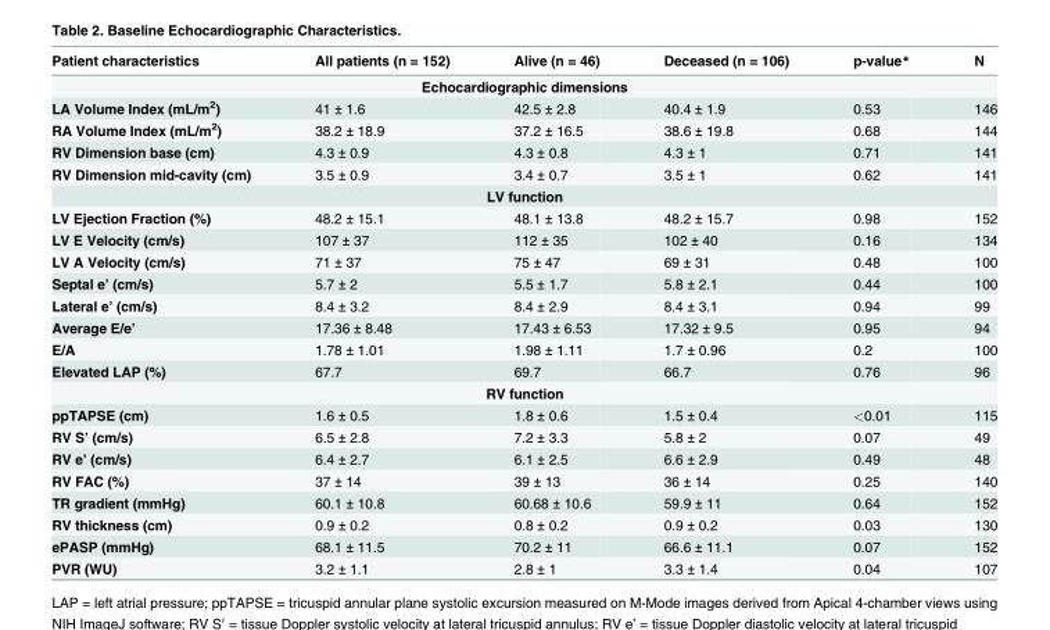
<table><thead><tr><td>Patient characteristics</td><td>All patients (n = 152)</td><td>Alive (n = 46)</td><td>Deceased (n = 106)</td><td>p-value*</td><td>N</td></tr></thead><tbody><tr><td colspan="6">Echocardiographic dimensions</td></tr><tr><td>LA Volume Index (mL/m<sup>2</sup>)</td><td>41 ± 1.6</td><td>42.5 ± 2.8</td><td>40.4 ± 1.9</td><td>0.53</td><td>146</td></tr><tr><td>RA Volume Index (mL/m<sup>2</sup>)</td><td>38.2 ± 18.9</td><td>37.2 ± 16.5</td><td>38.6 ± 19.8</td><td>0.68</td><td>144</td></tr><tr><td>RV Dimension base (cm)</td><td>4.3 ± 0.9</td><td>4.3 ± 0.8</td><td>4.3 ± 1</td><td>0.71</td><td>141</td></tr><tr><td>RV Dimension mid-cavity (cm)</td><td>3.5 ± 0.9</td><td>3.4 ± 0.7</td><td>3.5 ± 1</td><td>0.62</td><td>141</td></tr><tr><td colspan="6">LV function</td></tr><tr><td>LV Ejection Fraction (%)</td><td>48.2 ± 15.1</td><td>48.1 ± 13.8</td><td>48.2 ± 15.7</td><td>0.98</td><td>152</td></tr><tr><td>LV E Velocity (cm/s)</td><td>107 ± 37</td><td>112 ± 35</td><td>102 ± 40</td><td>0.16</td><td>134</td></tr><tr><td>LV A Velocity (cm/s)</td><td>71 ± 37</td><td>75 ± 47</td><td>69 ± 31</td><td>0.48</td><td>100</td></tr><tr><td>Septal e’ (cm/s)</td><td>5.7 ± 2</td><td>5.5 ± 1.7</td><td>5.8 ± 2.1</td><td>0.44</td><td>100</td></tr><tr><td>Lateral e’ (cm/s)</td><td>8.4 ± 3.2</td><td>8.4 ± 2.9</td><td>8.4 ± 3.1</td><td>0.94</td><td>99</td></tr><tr><td>Average E/e’</td><td>17.36 ± 8.48</td><td>17.43 ± 6.53</td><td>17.32 ± 9.5</td><td>0.95</td><td>94</td></tr><tr><td>E/A</td><td>1.78 ± 1.01</td><td>1.98 ± 1.11</td><td>1.7 ± 0.96</td><td>0.2</td><td>100</td></tr><tr><td>Elevated LAP (%)</td><td>67.7</td><td>69.7</td><td>66.7</td><td>0.76</td><td>96</td></tr><tr><td colspan="6">RV function</td></tr><tr><td>ppTAPSE (cm)</td><td>1.6 ± 0.5</td><td>1.8 ± 0.6</td><td>1.5 ± 0.4</td><td>&lt;0.01</td><td>115</td></tr><tr><td>RV S’ (cm/s)</td><td>6.5 ± 2.8</td><td>7.2 ± 3.3</td><td>5.8 ± 2</td><td>0.07</td><td>49</td></tr><tr><td>RV e’ (cm/s)</td><td>6.4 ± 2.7</td><td>6.1 ± 2.5</td><td>6.6 ± 2.9</td><td>0.49</td><td>48</td></tr><tr><td>RV FAC (%)</td><td>37 ± 14</td><td>39 ± 13</td><td>36 ± 14</td><td>0.25</td><td>140</td></tr><tr><td>TR gradient (mmHg)</td><td>60.1 ± 10.8</td><td>60.68 ± 10.6</td><td>59.9 ± 11</td><td>0.64</td><td>152</td></tr><tr><td>RV thickness (cm)</td><td>0.9 ± 0.2</td><td>0.8 ± 0.2</td><td>0.9 ± 0.2</td><td>0.03</td><td>130</td></tr><tr><td>ePASP (mmHg)</td><td>68.1 ± 11.5</td><td>70.2 ± 11</td><td>66.6 ± 11.1</td><td>0.07</td><td>152</td></tr><tr><td>PVR (WU)</td><td>3.2 ± 1.1</td><td>2.8 ± 1</td><td>3.3 ± 1.4</td><td>0.04</td><td>107</td></tr></tbody></table>